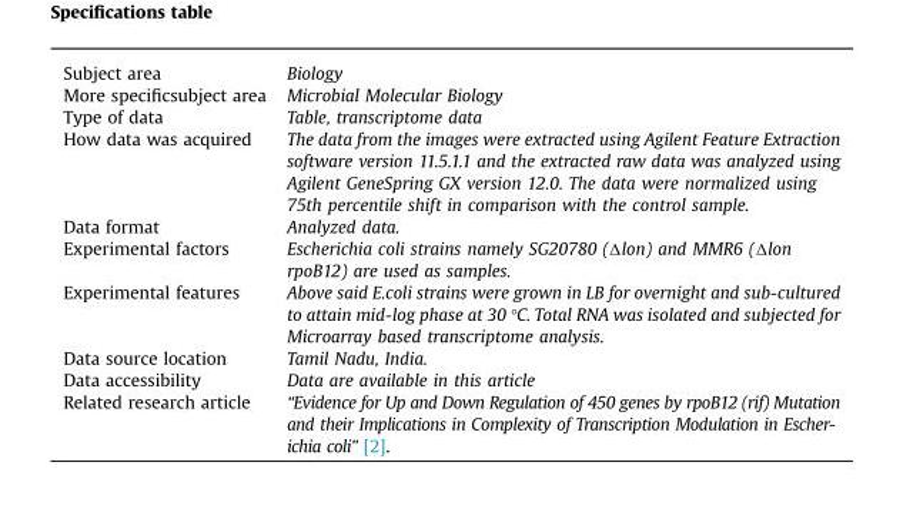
<table><tbody><tr><td>Subject area</td><td>Biology</td></tr><tr><td>More specificsubject area</td><td>Microbial Molecular Biology</td></tr><tr><td>Type of data</td><td>Table, transcriptome data</td></tr><tr><td>How data was acquired</td><td>The data from the images were extracted using Agilent Feature Extraction software version 11.5.1.1 and the extracted raw data was analyzed using Agilent GeneSpring GX version 12.0. The data were normalized using 75th percentile shift in comparison with the control sample.</td></tr><tr><td>Data format</td><td>Analyzed data.</td></tr><tr><td>Experimental factors</td><td>Escherichia coli strains namely SG20780 (Δlon) and MMR6 (Δlon rpoB12) are used as samples.</td></tr><tr><td>Experimental features</td><td>Above said E.coli strains were grown in LB for overnight and sub-cultured to attain mid-log phase at 30 °C. Total RNA was isolated and subjected for Microarray based transcriptome analysis.</td></tr><tr><td>Data source location</td><td>Tamil Nadu, India.</td></tr><tr><td>Data accessibility</td><td>Data are available in this article</td></tr><tr><td>Related research article</td><td>“Evidence for Up and Down Regulation of 450 genes by rpoB12 (rif) Mutation and their Implications in Complexity of Transcription Modulation in Escher- ichia coli” [2].</td></tr></tbody></table>